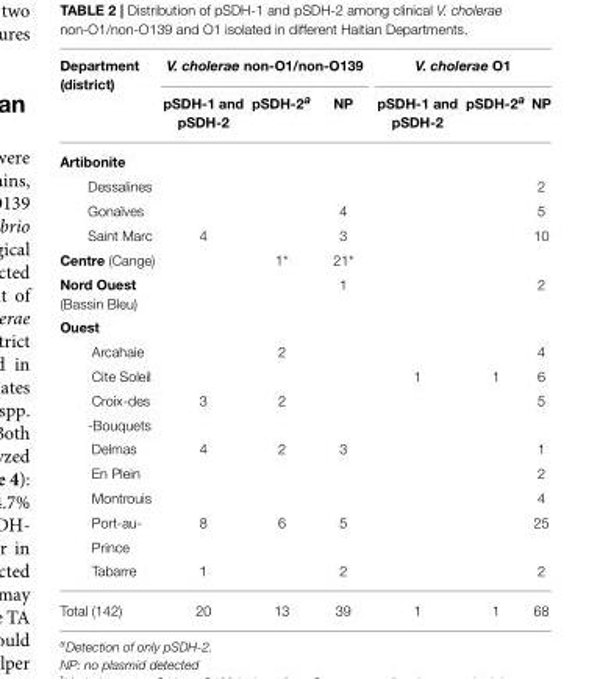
<table><thead><tr><td rowspan="2">Department (district)</td><td colspan="3">V. cholerae non-O1/non-O139</td><td colspan="3">V. cholerae O1</td></tr><tr><td>pSDH-1 and pSDH-2</td><td>pSDH-2<sup>a</sup></td><td>NP</td><td>pSDH-1 and pSDH-2</td><td>pSDH-2<sup>a</sup></td><td>NP</td></tr></thead><tbody><tr><td colspan="7">Artibonite</td></tr><tr><td>Dessalines</td><td></td><td></td><td></td><td></td><td></td><td>2</td></tr><tr><td>Gonaïves</td><td></td><td></td><td>4</td><td></td><td></td><td>5</td></tr><tr><td>Saint Marc</td><td>4</td><td></td><td>3</td><td></td><td></td><td>10</td></tr><tr><td>Centre (Cange)</td><td></td><td>1*</td><td>21*</td><td></td><td></td><td></td></tr><tr><td>Nord Ouest (Bassin Bleu)</td><td></td><td></td><td>1</td><td></td><td></td><td>2</td></tr><tr><td colspan="7">Ouest</td></tr><tr><td>Arcahaie</td><td></td><td>2</td><td></td><td></td><td></td><td>4</td></tr><tr><td>Cite Soleil</td><td></td><td></td><td></td><td>1</td><td>1</td><td>6</td></tr><tr><td>Croix-des</td><td>3</td><td>2</td><td></td><td></td><td></td><td>5</td></tr><tr><td colspan="7">-Bouquets</td></tr><tr><td>Delmas</td><td>4</td><td>2</td><td>3</td><td></td><td></td><td>1</td></tr><tr><td>En Plein</td><td></td><td></td><td></td><td></td><td></td><td>2</td></tr><tr><td>Montrouis</td><td></td><td></td><td></td><td></td><td></td><td>4</td></tr><tr><td>Port-au-</td><td>8</td><td>6</td><td>5</td><td></td><td></td><td>25</td></tr><tr><td colspan="7">Prince</td></tr><tr><td>Tabarre</td><td>1</td><td></td><td>2</td><td></td><td></td><td>2</td></tr><tr><td>Total (142)</td><td>20</td><td>13</td><td>39</td><td>1</td><td>1</td><td>68</td></tr></tbody></table>